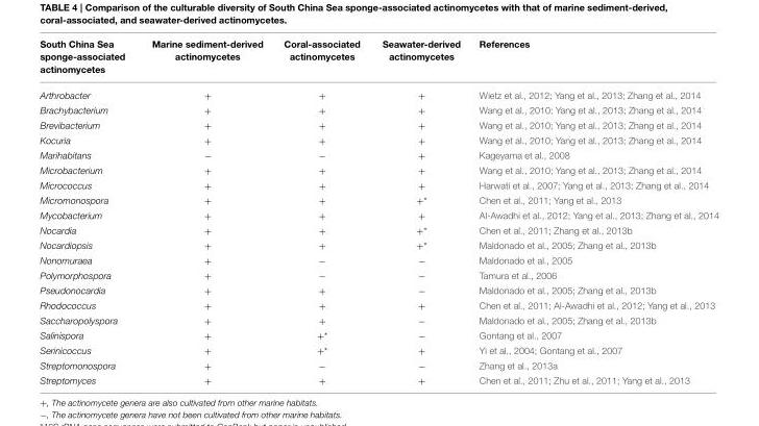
<table><thead><tr><td>South China Sea sponge-associated actinomycetes</td><td>Marine sediment-derived actinomycetes</td><td>Coral-associated actinomycetes</td><td>Seawater-derived actinomycetes</td><td>References</td></tr></thead><tbody><tr><td>Arthrobacter</td><td>+</td><td>+</td><td>+</td><td>Wietz et al., 2012; Yang et al., 2013; Zhang et al., 2014</td></tr><tr><td>Brachybacterium</td><td>+</td><td>+</td><td>+</td><td>Wang et al., 2010; Yang et al., 2013; Zhang et al., 2014</td></tr><tr><td>Brevibacterium</td><td>+</td><td>+</td><td>+</td><td>Wang et al., 2010; Yang et al., 2013; Zhang et al., 2014</td></tr><tr><td>Kocuria</td><td>+</td><td>+</td><td>+</td><td>Wang et al., 2010; Yang et al., 2013; Zhang et al., 2014</td></tr><tr><td>Marihabitans</td><td>−</td><td>−</td><td>+</td><td>Kageyama et al., 2008</td></tr><tr><td>Microbacterium</td><td>+</td><td>+</td><td>+</td><td>Wang et al., 2010; Yang et al., 2013; Zhang et al., 2014</td></tr><tr><td>Micrococcus</td><td>+</td><td>+</td><td>+</td><td>Harwati et al., 2007; Yang et al., 2013; Zhang et al., 2014</td></tr><tr><td>Micromonospora</td><td>+</td><td>+</td><td>+*</td><td>Chen et al., 2011; Yang et al., 2013</td></tr><tr><td>Mycobacterium</td><td>+</td><td>+</td><td>+</td><td>Al-Awadhi et al., 2012; Yang et al., 2013; Zhang et al., 2014</td></tr><tr><td>Nocardia</td><td>+</td><td>+</td><td>+*</td><td>Chen et al., 2011; Zhang et al., 2013b</td></tr><tr><td>Nocardiopsis</td><td>+</td><td>+</td><td>+*</td><td>Maldonado et al., 2005; Zhang et al., 2013b</td></tr><tr><td>Nonomuraea</td><td>+</td><td>−</td><td>−</td><td>Maldonado et al., 2005</td></tr><tr><td>Polymorphospora</td><td>+</td><td>−</td><td>−</td><td>Tamura et al., 2006</td></tr><tr><td>Pseudonocardia</td><td>+</td><td>+</td><td>−</td><td>Maldonado et al., 2005; Zhang et al., 2013b</td></tr><tr><td>Rhodococcus</td><td>+</td><td>+</td><td>+</td><td>Chen et al., 2011; Al-Awadhi et al., 2012; Yang et al., 2013</td></tr><tr><td>Saccharopolyspora</td><td>+</td><td>+</td><td>−</td><td>Maldonado et al., 2005; Zhang et al., 2013b</td></tr><tr><td>Salinispora</td><td>+</td><td>+*</td><td>−</td><td>Gontang et al., 2007</td></tr><tr><td>Serinicoccus</td><td>+</td><td>+*</td><td>+</td><td>Yi et al., 2004; Gontang et al., 2007</td></tr><tr><td>Streptomonospora</td><td>+</td><td>−</td><td>−</td><td>Zhang et al., 2013a</td></tr><tr><td>Streptomyces</td><td>+</td><td>+</td><td>+</td><td>Chen et al., 2011; Zhu et al., 2011; Yang et al., 2013</td></tr></tbody></table>